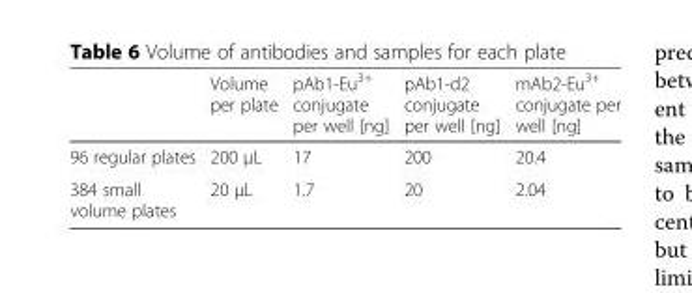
<table><thead><tr><td></td><td>Volume per plate</td><td>pAb1-Eu<sup>3+</sup> conjugate per well [ng]</td><td>pAb1-d2 conjugate per well [ng]</td><td>mAb2-Eu<sup>3+</sup> conjugate per well [ng]</td></tr></thead><tbody><tr><td>96 regular plates</td><td>200 μL</td><td>17</td><td>200</td><td>20.4</td></tr><tr><td>384 small volume plates</td><td>20 μL</td><td>1.7</td><td>20</td><td>2.04</td></tr></tbody></table>